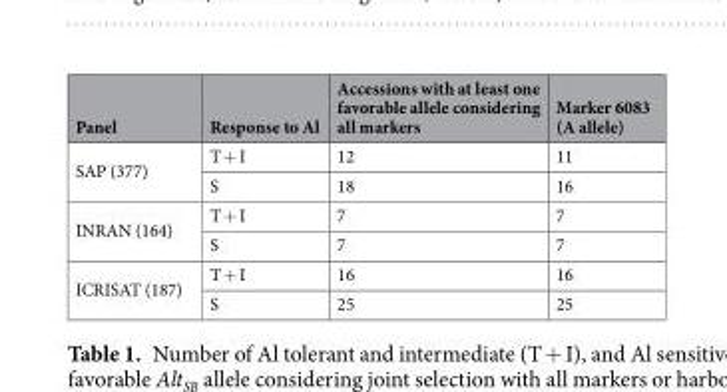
<table><thead><tr><td>Panel</td><td>Response to Al</td><td>Accessions with at least one favorable allele considering all markers</td><td>Marker 6083 (A allele)</td></tr></thead><tbody><tr><td rowspan="2">SAP (377)</td><td>T + I</td><td>12</td><td>11</td></tr><tr><td>S</td><td>18</td><td>16</td></tr><tr><td rowspan="2">INRAN (164)</td><td>T + I</td><td>7</td><td>7</td></tr><tr><td>S</td><td>7</td><td>7</td></tr><tr><td rowspan="2">ICRISAT (187)</td><td>T + I</td><td>16</td><td>16</td></tr><tr><td>S</td><td>25</td><td>25</td></tr></tbody></table>